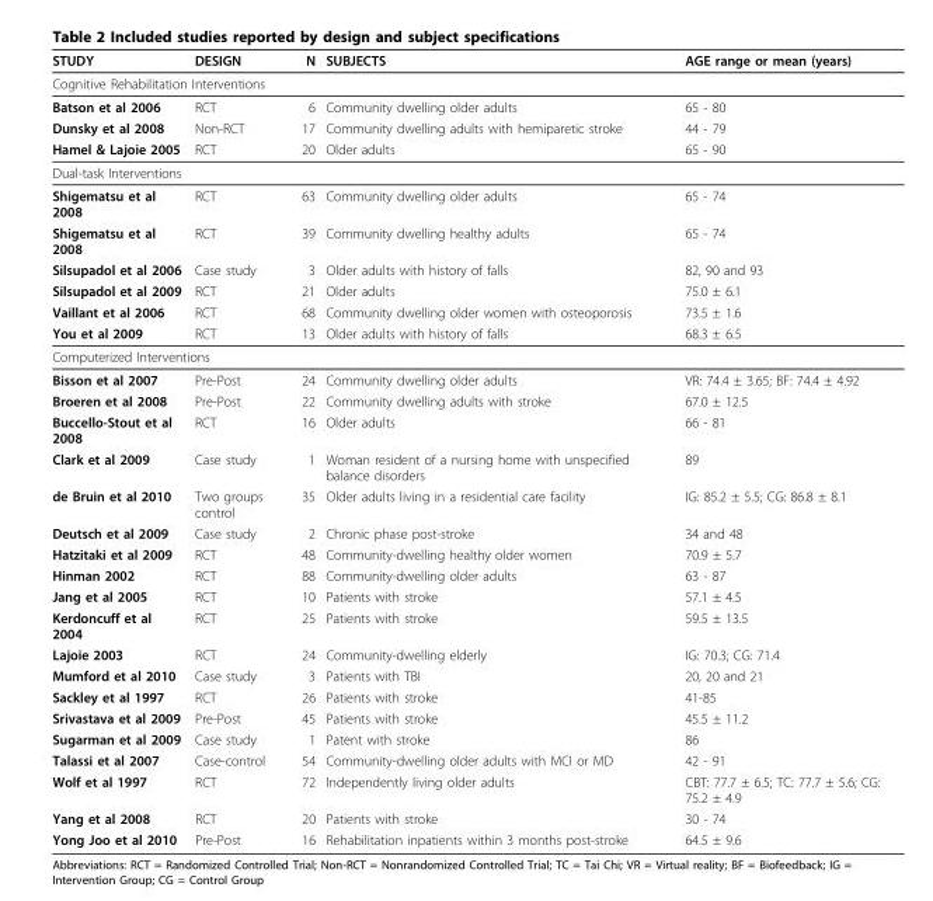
<table><thead><tr><td>STUDY</td><td>DESIGN</td><td>N</td><td>SUBJECTS</td><td>AGE range or mean (years)</td></tr></thead><tbody><tr><td colspan="5">Cognitive Rehabilitation Interventions</td></tr><tr><td>Batson et al 2006</td><td>RCT</td><td>6</td><td>Community dwelling older adults</td><td>65 - 80</td></tr><tr><td>Dunsky et al 2008</td><td>Non-RCT</td><td>17</td><td>Community dwelling adults with hemiparetic stroke</td><td>44 - 79</td></tr><tr><td>Hamel &amp; Lajoie 2005</td><td>RCT</td><td>20</td><td>Older adults</td><td>65 - 90</td></tr><tr><td colspan="5">Dual-task Interventions</td></tr><tr><td>Shigematsu et al 2008</td><td>RCT</td><td>63</td><td>Community dwelling older adults</td><td>65 - 74</td></tr><tr><td>Shigematsu et al 2008</td><td>RCT</td><td>39</td><td>Community dwelling healthy adults</td><td>65 - 74</td></tr><tr><td>Silsupadol et al 2006</td><td>Case study</td><td>3</td><td>Older adults with history of falls</td><td>82, 90 and 93</td></tr><tr><td>Silsupadol et al 2009</td><td>RCT</td><td>21</td><td>Older adults</td><td>75.0 ± 6.1</td></tr><tr><td>Vaillant et al 2006</td><td>RCT</td><td>68</td><td>Community dwelling older women with osteoporosis</td><td>73.5 ± 1.6</td></tr><tr><td>You et al 2009</td><td>RCT</td><td>13</td><td>Older adults with history of falls</td><td>68.3 ± 6.5</td></tr><tr><td colspan="5">Computerized Interventions</td></tr><tr><td>Bisson et al 2007</td><td>Pre-Post</td><td>24</td><td>Community dwelling older adults</td><td>VR: 74.4 ± 3.65; BF: 74.4 ± 4.92</td></tr><tr><td>Broeren et al 2008</td><td>Pre-Post</td><td>22</td><td>Community dwelling adults with stroke</td><td>67.0 ± 12.5</td></tr><tr><td>Buccello-Stout et al 2008</td><td>RCT</td><td>16</td><td>Older adults</td><td>66 - 81</td></tr><tr><td>Clark et al 2009</td><td>Case study</td><td>1</td><td>Woman resident of a nursing home with unspecified balance disorders</td><td>89</td></tr><tr><td>de Bruin et al 2010</td><td>Two groups control</td><td>35</td><td>Older adults living in a residential care facility</td><td>IG: 85.2 ± 5.5; CG: 86.8 ± 8.1</td></tr><tr><td>Deutsch et al 2009</td><td>Case study</td><td>2</td><td>Chronic phase post-stroke</td><td>34 and 48</td></tr><tr><td>Hatzitaki et al 2009</td><td>RCT</td><td>48</td><td>Community-dwelling healthy older women</td><td>70.9 ± 5.7</td></tr><tr><td>Hinman 2002</td><td>RCT</td><td>88</td><td>Community-dwelling older adults</td><td>63 - 87</td></tr><tr><td>Jang et al 2005</td><td>RCT</td><td>10</td><td>Patients with stroke</td><td>57.1 ± 4.5</td></tr><tr><td>Kerdoncuff et al 2004</td><td>RCT</td><td>25</td><td>Patients with stroke</td><td>59.5 ± 13.5</td></tr><tr><td>Lajoie 2003</td><td>RCT</td><td>24</td><td>Community-dwelling elderly</td><td>IG: 70.3; CG: 71.4</td></tr><tr><td>Mumford et al 2010</td><td>Case study</td><td>3</td><td>Patients with TBI</td><td>20, 20 and 21</td></tr><tr><td>Sackley et al 1997</td><td>RCT</td><td>26</td><td>Patients with stroke</td><td>41-85</td></tr><tr><td>Srivastava et al 2009</td><td>Pre-Post</td><td>45</td><td>Patients with stroke</td><td>45.5 ± 11.2</td></tr><tr><td>Sugarman et al 2009</td><td>Case study</td><td>1</td><td>Patent with stroke</td><td>86</td></tr><tr><td>Talassi et al 2007</td><td>Case-control</td><td>54</td><td>Community-dwelling older adults with MCI or MD</td><td>42 - 91</td></tr><tr><td>Wolf et al 1997</td><td>RCT</td><td>72</td><td>Independently living older adults</td><td>CBT: 77.7 ± 6.5; TC: 77.7 ± 5.6; CG: 75.2 ± 4.9</td></tr><tr><td>Yang et al 2008</td><td>RCT</td><td>20</td><td>Patients with stroke</td><td>30 - 74</td></tr><tr><td>Yong Joo et al 2010</td><td>Pre-Post</td><td>16</td><td>Rehabilitation inpatients within 3 months post-stroke</td><td>64.5 ± 9.6</td></tr></tbody></table>